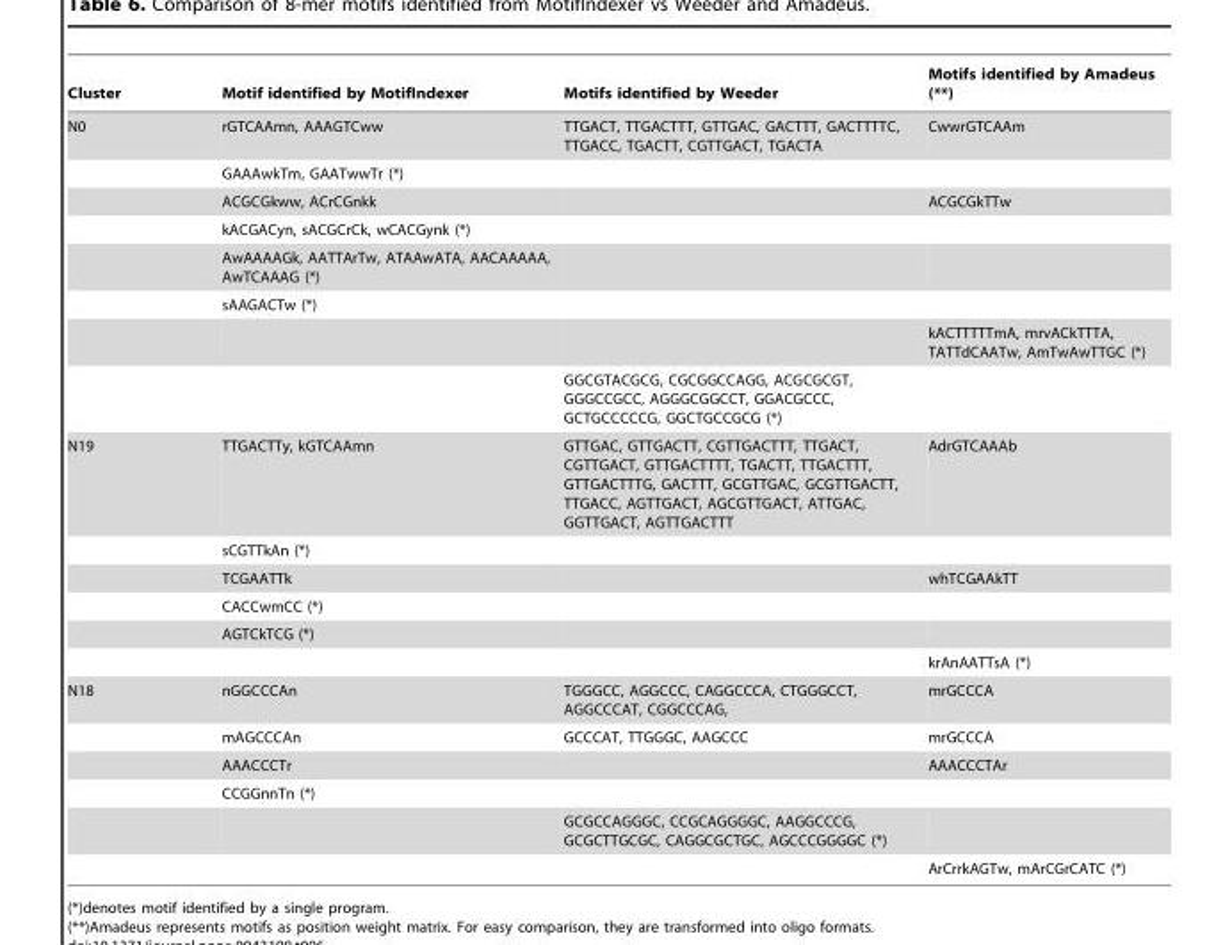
<table><thead><tr><td>Cluster</td><td>Motif identified by MotifIndexer</td><td>Motifs identified by Weeder</td><td>Motifs identified by Amadeus (**)</td></tr></thead><tbody><tr><td rowspan="8">N0</td><td>rGTCAAmn, AAAGTCww</td><td>TTGACT, TTGACTTT, GTTGAC, GACTTT, GACTTTTC, TTGACC, TGACTT, CGTTGACT, TGACTA</td><td>CwwrGTCAAm</td></tr><tr><td>GAAAwkTm, GAATwwTr (*)</td><td></td><td></td></tr><tr><td>ACGCGkww, ACrCGnkk</td><td></td><td>ACGCGkTTw</td></tr><tr><td>kACGACyn, sACGCrCk, wCACGynk (*)</td><td></td><td></td></tr><tr><td>AwAAAAGk, AATTArTw, ATAAwATA, AACAAAAA, AwTCAAAG (*)</td><td></td><td></td></tr><tr><td>sAAGACTw (*)</td><td></td><td></td></tr><tr><td></td><td></td><td>kACTTTTTmA, mrvACkTTTA, TATTdCAATw, AmTwAwTTGC (*)</td></tr><tr><td></td><td>GGCGTACGCG, CGCGGCCAGG, ACGCGCGT, GGGCCGCC, AGGGCGGCCT, GGACGCCC, GCTGCCCCCG, GGCTGCCGCG (*)</td><td></td></tr><tr><td rowspan="6">N19</td><td>TTGACTTy, kGTCAAmn</td><td>GTTGAC, GTTGACTT, CGTTGACTTT, TTGACT, CGTTGACT, GTTGACTTTT, TGACTT, TTGACTTT, GTTGACTTTG, GACTTT, GCGTTGAC, GCGTTGACTT, TTGACC, AGTTGACT, AGCGTTGACT, ATTGAC, GGTTGACT, AGTTGACTTT</td><td>AdrGTCAAAb</td></tr><tr><td>sCGTTkAn (*)</td><td></td><td></td></tr><tr><td>TCGAATTk</td><td></td><td>whTCGAAkTT</td></tr><tr><td>CACCwmCC (*)</td><td></td><td></td></tr><tr><td>AGTCkTCG (*)</td><td></td><td></td></tr><tr><td></td><td></td><td>krAnAATTsA (*)</td></tr><tr><td rowspan="6">N18</td><td>nGGCCCAn</td><td>TGGGCC, AGGCCC, CAGGCCCA, CTGGGCCT, AGGCCCAT, CGGCCCAG,</td><td>mrGCCCA</td></tr><tr><td>mAGCCCAn</td><td>GCCCAT, TTGGGC, AAGCCC</td><td>mrGCCCA</td></tr><tr><td>AAACCCTr</td><td></td><td>AAACCCTAr</td></tr><tr><td>CCGGnnTn (*)</td><td></td><td></td></tr><tr><td></td><td>GCGCCAGGGC, CCGCAGGGGC, AAGGCCCG, GCGCTTGCGC, CAGGCGCTGC, AGCCCGGGGC (*)</td><td></td></tr><tr><td></td><td></td><td>ArCrrkAGTw, mArCGrCATC (*)</td></tr></tbody></table>